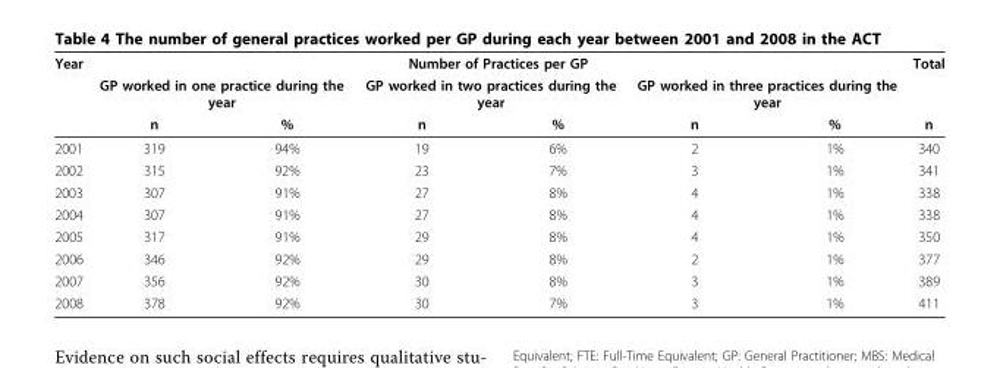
<table><thead><tr><td rowspan="3">Year</td><td colspan="6">Number of Practices per GP</td><td rowspan="3">Total n</td></tr><tr><td colspan="2">GP worked in one practice during the year</td><td colspan="2">GP worked in two practices during the year</td><td colspan="2">GP worked in three practices during the year</td></tr><tr><td>n</td><td>%</td><td>n</td><td>%</td><td>n</td><td>%</td></tr></thead><tbody><tr><td>2001</td><td>319</td><td>94%</td><td>19</td><td>6%</td><td>2</td><td>1%</td><td>340</td></tr><tr><td>2002</td><td>315</td><td>92%</td><td>23</td><td>7%</td><td>3</td><td>1%</td><td>341</td></tr><tr><td>2003</td><td>307</td><td>91%</td><td>27</td><td>8%</td><td>4</td><td>1%</td><td>338</td></tr><tr><td>2004</td><td>307</td><td>91%</td><td>27</td><td>8%</td><td>4</td><td>1%</td><td>338</td></tr><tr><td>2005</td><td>317</td><td>91%</td><td>29</td><td>8%</td><td>4</td><td>1%</td><td>350</td></tr><tr><td>2006</td><td>346</td><td>92%</td><td>29</td><td>8%</td><td>2</td><td>1%</td><td>377</td></tr><tr><td>2007</td><td>356</td><td>92%</td><td>30</td><td>8%</td><td>3</td><td>1%</td><td>389</td></tr><tr><td>2008</td><td>378</td><td>92%</td><td>30</td><td>7%</td><td>3</td><td>1%</td><td>411</td></tr></tbody></table>